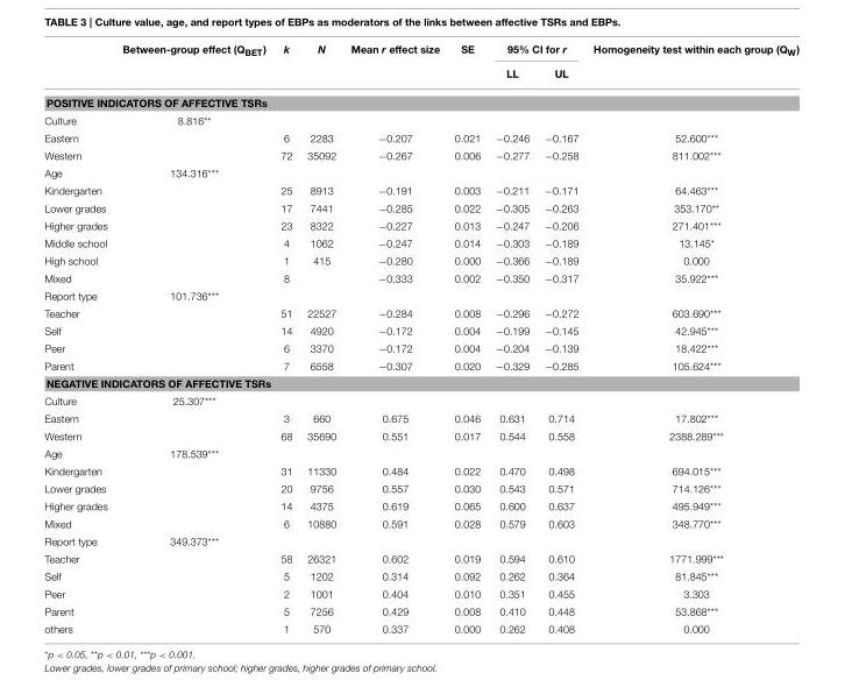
<table><thead><tr><td rowspan="2"></td><td rowspan="2">Between-group effect (Q<sub>BET</sub>)</td><td rowspan="2">k</td><td rowspan="2">N</td><td rowspan="2">Mean r effect size</td><td rowspan="2">SE</td><td colspan="2">95% CI for r</td><td rowspan="2">Homogeneity test within each group (QW)</td></tr><tr><td>LL</td><td>UL</td></tr></thead><tbody><tr><td colspan="9">POSITIVE INDICATORS OF AFFECTIVE TSRs</td></tr><tr><td>Culture</td><td>8.816**</td><td></td><td></td><td></td><td></td><td></td><td></td><td></td></tr><tr><td>Eastern</td><td></td><td>6</td><td>2283</td><td>−0.207</td><td>0.021</td><td>−0.246</td><td>−0.167</td><td>52.600***</td></tr><tr><td>Western</td><td></td><td>72</td><td>35092</td><td>−0.267</td><td>0.006</td><td>−0.277</td><td>−0.258</td><td>811.002***</td></tr><tr><td>Age</td><td>134.316***</td><td></td><td></td><td></td><td></td><td></td><td></td><td></td></tr><tr><td>Kindergarten</td><td></td><td>25</td><td>8913</td><td>−0.191</td><td>0.003</td><td>−0.211</td><td>−0.171</td><td>64.463***</td></tr><tr><td>Lower grades</td><td></td><td>17</td><td>7441</td><td>−0.285</td><td>0.022</td><td>−0.305</td><td>−0.263</td><td>353.170**</td></tr><tr><td>Higher grades</td><td></td><td>23</td><td>8322</td><td>−0.227</td><td>0.013</td><td>−0.247</td><td>−0.206</td><td>271.401***</td></tr><tr><td>Middle school</td><td></td><td>4</td><td>1062</td><td>−0.247</td><td>0.014</td><td>−0.303</td><td>−0.189</td><td>13.145*</td></tr><tr><td>High school</td><td></td><td>1</td><td>415</td><td>−0.280</td><td>0.000</td><td>−0.366</td><td>−0.189</td><td>0.000</td></tr><tr><td>Mixed</td><td></td><td>8</td><td></td><td>−0.333</td><td>0.002</td><td>−0.350</td><td>−0.317</td><td>35.922***</td></tr><tr><td>Report type</td><td>101.736***</td><td></td><td></td><td></td><td></td><td></td><td></td><td></td></tr><tr><td>Teacher</td><td></td><td>51</td><td>22527</td><td>−0.284</td><td>0.008</td><td>−0.296</td><td>−0.272</td><td>603.690***</td></tr><tr><td>Self</td><td></td><td>14</td><td>4920</td><td>−0.172</td><td>0.004</td><td>−0.199</td><td>−0.145</td><td>42.945***</td></tr><tr><td>Peer</td><td></td><td>6</td><td>3370</td><td>−0.172</td><td>0.004</td><td>−0.204</td><td>−0.139</td><td>18.422***</td></tr><tr><td>Parent</td><td></td><td>7</td><td>6558</td><td>−0.307</td><td>0.020</td><td>−0.329</td><td>−0.285</td><td>105.624***</td></tr><tr><td colspan="9">NEGATIVE INDICATORS OF AFFECTIVE TSRs</td></tr><tr><td>Culture</td><td>25.307***</td><td></td><td></td><td></td><td></td><td></td><td></td><td></td></tr><tr><td>Eastern</td><td></td><td>3</td><td>660</td><td>0.675</td><td>0.046</td><td>0.631</td><td>0.714</td><td>17.802***</td></tr><tr><td>Western</td><td></td><td>68</td><td>35690</td><td>0.551</td><td>0.017</td><td>0.544</td><td>0.558</td><td>2388.289***</td></tr><tr><td>Age</td><td>178.539***</td><td></td><td></td><td></td><td></td><td></td><td></td><td></td></tr><tr><td>Kindergarten</td><td></td><td>31</td><td>11330</td><td>0.484</td><td>0.022</td><td>0.470</td><td>0.498</td><td>694.015***</td></tr><tr><td>Lower grades</td><td></td><td>20</td><td>9756</td><td>0.557</td><td>0.030</td><td>0.543</td><td>0.571</td><td>714.126***</td></tr><tr><td>Higher grades</td><td></td><td>14</td><td>4375</td><td>0.619</td><td>0.065</td><td>0.600</td><td>0.637</td><td>495.949***</td></tr><tr><td>Mixed</td><td></td><td>6</td><td>10880</td><td>0.591</td><td>0.028</td><td>0.579</td><td>0.603</td><td>348.770***</td></tr><tr><td>Report type</td><td>349.373***</td><td></td><td></td><td></td><td></td><td></td><td></td><td></td></tr><tr><td>Teacher</td><td></td><td>58</td><td>26321</td><td>0.602</td><td>0.019</td><td>0.594</td><td>0.610</td><td>1771.999***</td></tr><tr><td>Self</td><td></td><td>5</td><td>1202</td><td>0.314</td><td>0.092</td><td>0.262</td><td>0.364</td><td>81.845***</td></tr><tr><td>Peer</td><td></td><td>2</td><td>1001</td><td>0.404</td><td>0.010</td><td>0.351</td><td>0.455</td><td>3.303</td></tr><tr><td>Parent</td><td></td><td>5</td><td>7256</td><td>0.429</td><td>0.008</td><td>0.410</td><td>0.448</td><td>53.868***</td></tr><tr><td>others</td><td></td><td>1</td><td>570</td><td>0.337</td><td>0.000</td><td>0.262</td><td>0.408</td><td>0.000</td></tr></tbody></table>